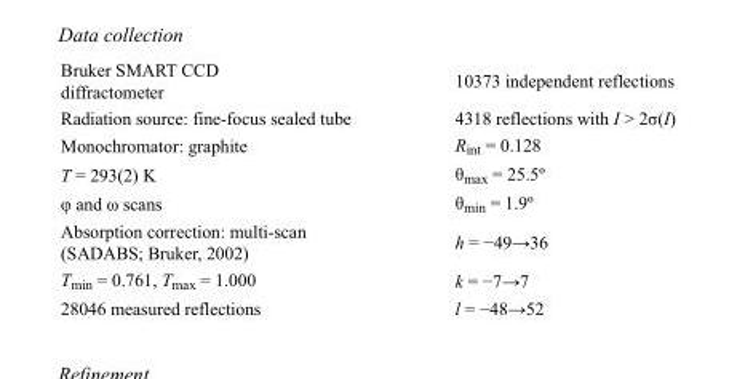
<table><tbody><tr><td>Bruker SMART CCD diffractometer</td><td>10373 independent reflections</td></tr><tr><td>Radiation source: fine-focus sealed tube</td><td>4318 reflections with I &gt; 2σ(I)</td></tr><tr><td>Monochromator: graphite</td><td>R<sub>int</sub> = 0.128</td></tr><tr><td>T = 293(2) K</td><td>θ<sub>max</sub> = 25.5º</td></tr><tr><td>φ and ω scans</td><td>θ<sub>min</sub> = 1.9º</td></tr><tr><td>Absorption correction: multi-scan (SADABS; Bruker, 2002)</td><td>h = −49→36</td></tr><tr><td>T<sub>min</sub> = 0.761, T<sub>max</sub> = 1.000</td><td>k = −7→7</td></tr><tr><td>28046 measured reflections</td><td>l = −48→52</td></tr></tbody></table>